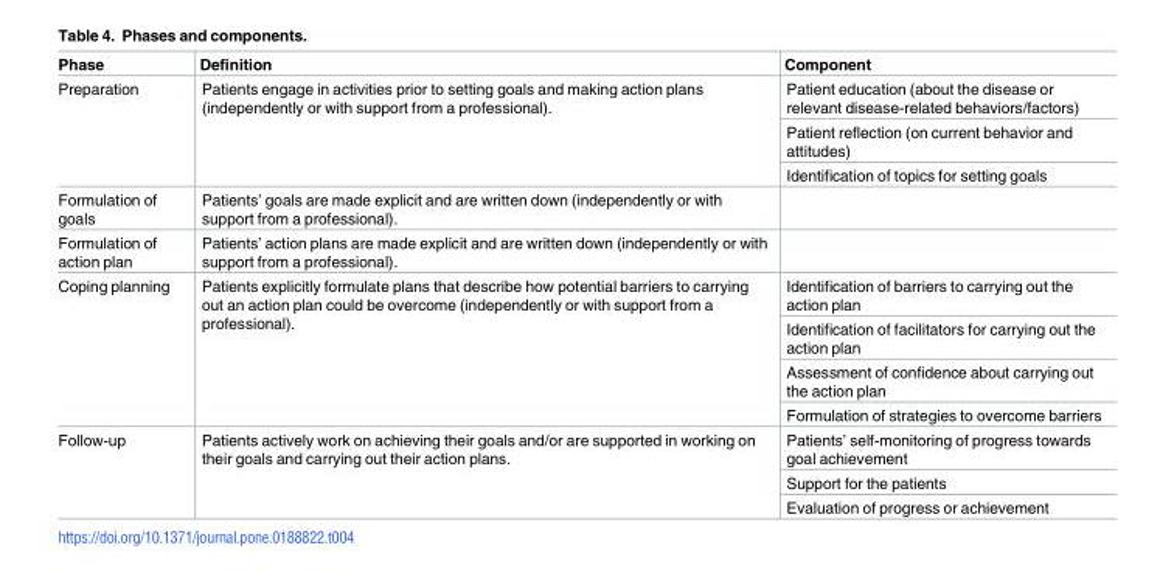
<table><thead><tr><td>Phase</td><td>Definition</td><td>Component</td></tr></thead><tbody><tr><td rowspan="3">Preparation</td><td rowspan="3">Patients engage in activities prior to setting goals and making action plans (independently or with support from a professional).</td><td>Patient education (about the disease or relevant disease-related behaviors/factors)</td></tr><tr><td>Patient reflection (on current behavior and attitudes)</td></tr><tr><td>Identification of topics for setting goals</td></tr><tr><td>Formulation of goals</td><td>Patients’ goals are made explicit and are written down (independently or with support from a professional).</td><td></td></tr><tr><td>Formulation of action plan</td><td>Patients’ action plans are made explicit and are written down (independently or with support from a professional).</td><td></td></tr><tr><td rowspan="4">Coping planning</td><td rowspan="4">Patients explicitly formulate plans that describe how potential barriers to carrying out an action plan could be overcome (independently or with support from a professional).</td><td>Identification of barriers to carrying out the action plan</td></tr><tr><td>Identification of facilitators for carrying out the action plan</td></tr><tr><td>Assessment of confidence about carrying out the action plan</td></tr><tr><td>Formulation of strategies to overcome barriers</td></tr><tr><td rowspan="3">Follow-up</td><td rowspan="3">Patients actively work on achieving their goals and/or are supported in working on their goals and carrying out their action plans.</td><td>Patients’ self-monitoring of progress towards goal achievement</td></tr><tr><td>Support for the patients</td></tr><tr><td>Evaluation of progress or achievement</td></tr></tbody></table>